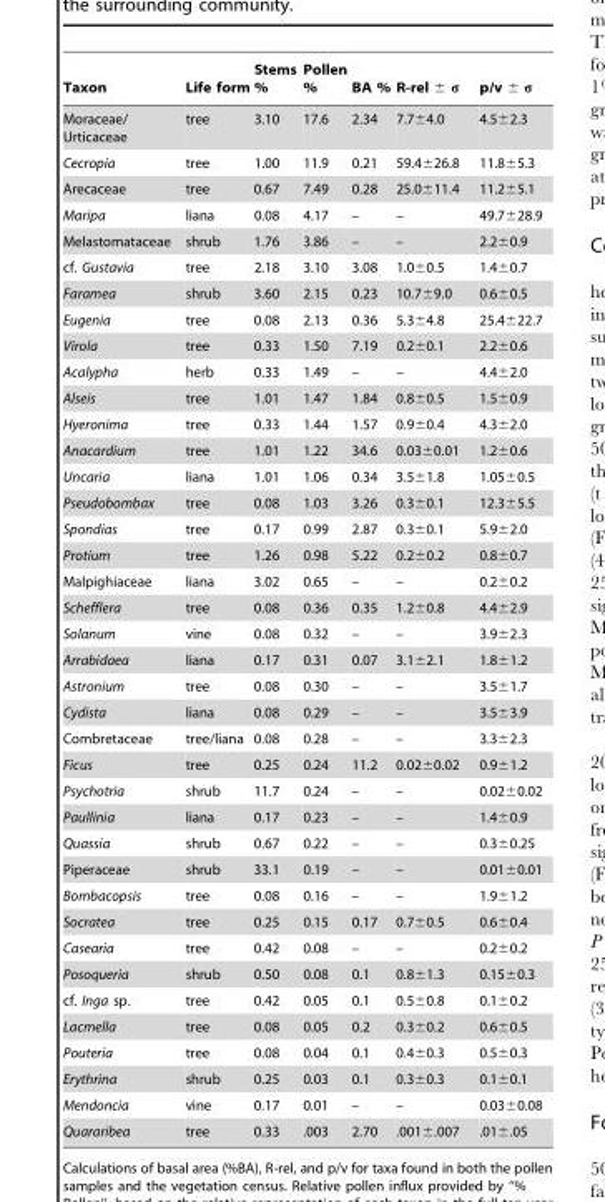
<table><thead><tr><td>Taxon</td><td>Life form</td><td>Stems %</td><td>Pollen %</td><td>BA %</td><td>R-rel ± σ</td><td>p/v ± σ</td></tr></thead><tbody><tr><td>Moraceae/ Urticaceae</td><td>tree</td><td>3.10</td><td>17.6</td><td>2.34</td><td>7.7±4.0</td><td>4.5±2.3</td></tr><tr><td>Cecropia</td><td>tree</td><td>1.00</td><td>11.9</td><td>0.21</td><td>59.4±26.8</td><td>11.8±5.3</td></tr><tr><td>Arecaceae</td><td>tree</td><td>0.67</td><td>7.49</td><td>0.28</td><td>25.0±11.4</td><td>11.2±5.1</td></tr><tr><td>Maripa</td><td>liana</td><td>0.08</td><td>4.17</td><td>–</td><td>–</td><td>49.7±28.9</td></tr><tr><td>Melastomataceae</td><td>shrub</td><td>1.76</td><td>3.86</td><td>–</td><td>–</td><td>2.2±0.9</td></tr><tr><td>cf. Gustavia</td><td>tree</td><td>2.18</td><td>3.10</td><td>3.08</td><td>1.0±0.5</td><td>1.4±0.7</td></tr><tr><td>Faramea</td><td>shrub</td><td>3.60</td><td>2.15</td><td>0.23</td><td>10.7±9.0</td><td>0.6±0.5</td></tr><tr><td>Eugenia</td><td>tree</td><td>0.08</td><td>2.13</td><td>0.36</td><td>5.3±4.8</td><td>25.4±22.7</td></tr><tr><td>Virola</td><td>tree</td><td>0.33</td><td>1.50</td><td>7.19</td><td>0.2±0.1</td><td>2.2±0.6</td></tr><tr><td>Acalypha</td><td>herb</td><td>0.33</td><td>1.49</td><td>–</td><td>–</td><td>4.4±2.0</td></tr><tr><td>Alseis</td><td>tree</td><td>1.01</td><td>1.47</td><td>1.84</td><td>0.8±0.5</td><td>1.5±0.9</td></tr><tr><td>Hyeronima</td><td>tree</td><td>0.33</td><td>1.44</td><td>1.57</td><td>0.9±0.4</td><td>4.3±2.0</td></tr><tr><td>Anacardium</td><td>tree</td><td>1.01</td><td>1.22</td><td>34.6</td><td>0.03±0.01</td><td>1.2±0.6</td></tr><tr><td>Uncaria</td><td>liana</td><td>1.01</td><td>1.06</td><td>0.34</td><td>3.5±1.8</td><td>1.05±0.5</td></tr><tr><td>Pseudobombax</td><td>tree</td><td>0.08</td><td>1.03</td><td>3.26</td><td>0.3±0.1</td><td>12.3±5.5</td></tr><tr><td>Spondias</td><td>tree</td><td>0.17</td><td>0.99</td><td>2.87</td><td>0.3±0.1</td><td>5.9±2.0</td></tr><tr><td>Protium</td><td>tree</td><td>1.26</td><td>0.98</td><td>5.22</td><td>0.2±0.2</td><td>0.8±0.7</td></tr><tr><td>Malpighiaceae</td><td>liana</td><td>3.02</td><td>0.65</td><td>–</td><td>–</td><td>0.2±0.2</td></tr><tr><td>Schefflera</td><td>tree</td><td>0.08</td><td>0.36</td><td>0.35</td><td>1.2±0.8</td><td>4.4±2.9</td></tr><tr><td>Solanum</td><td>vine</td><td>0.08</td><td>0.32</td><td>–</td><td>–</td><td>3.9±2.3</td></tr><tr><td>Arrabidaea</td><td>liana</td><td>0.17</td><td>0.31</td><td>0.07</td><td>3.1±2.1</td><td>1.8±1.2</td></tr><tr><td>Astronium</td><td>tree</td><td>0.08</td><td>0.30</td><td>–</td><td>–</td><td>3.5±1.7</td></tr><tr><td>Cydista</td><td>liana</td><td>0.08</td><td>0.29</td><td>–</td><td>–</td><td>3.5±3.9</td></tr><tr><td>Combretaceae</td><td>tree/liana</td><td>0.08</td><td>0.28</td><td>–</td><td>–</td><td>3.3±2.3</td></tr><tr><td>Ficus</td><td>tree</td><td>0.25</td><td>0.24</td><td>11.2</td><td>0.02±0.02</td><td>0.9±1.2</td></tr><tr><td>Psychotria</td><td>shrub</td><td>11.7</td><td>0.24</td><td>–</td><td>–</td><td>0.02±0.02</td></tr><tr><td>Paullinia</td><td>liana</td><td>0.17</td><td>0.23</td><td>–</td><td>–</td><td>1.4±0.9</td></tr><tr><td>Quassia</td><td>shrub</td><td>0.67</td><td>0.22</td><td>–</td><td>–</td><td>0.3±0.25</td></tr><tr><td>Piperaceae</td><td>shrub</td><td>33.1</td><td>0.19</td><td>–</td><td>–</td><td>0.01±0.01</td></tr><tr><td>Bombacopsis</td><td>tree</td><td>0.08</td><td>0.16</td><td>–</td><td>–</td><td>1.9±1.2</td></tr><tr><td>Socratea</td><td>tree</td><td>0.25</td><td>0.15</td><td>0.17</td><td>0.7±0.5</td><td>0.6±0.4</td></tr><tr><td>Casearia</td><td>tree</td><td>0.42</td><td>0.08</td><td>–</td><td>–</td><td>0.2±0.2</td></tr><tr><td>Posoqueria</td><td>shrub</td><td>0.50</td><td>0.08</td><td>0.1</td><td>0.8±1.3</td><td>0.15±0.3</td></tr><tr><td>cf. Inga sp.</td><td>tree</td><td>0.42</td><td>0.05</td><td>0.1</td><td>0.5±0.8</td><td>0.1±0.2</td></tr><tr><td>Lacmella</td><td>tree</td><td>0.08</td><td>0.05</td><td>0.2</td><td>0.3±0.2</td><td>0.6±0.5</td></tr><tr><td>Pouteria</td><td>tree</td><td>0.08</td><td>0.04</td><td>0.1</td><td>0.4±0.3</td><td>0.5±0.3</td></tr><tr><td>Erythrina</td><td>shrub</td><td>0.25</td><td>0.03</td><td>0.1</td><td>0.3±0.3</td><td>0.1±0.1</td></tr><tr><td>Mendoncia</td><td>vine</td><td>0.17</td><td>0.01</td><td>–</td><td>–</td><td>0.03±0.08</td></tr><tr><td>Quararibea</td><td>tree</td><td>0.33</td><td>.003</td><td>2.70</td><td>.001±.007</td><td>.01±.05</td></tr></tbody></table>